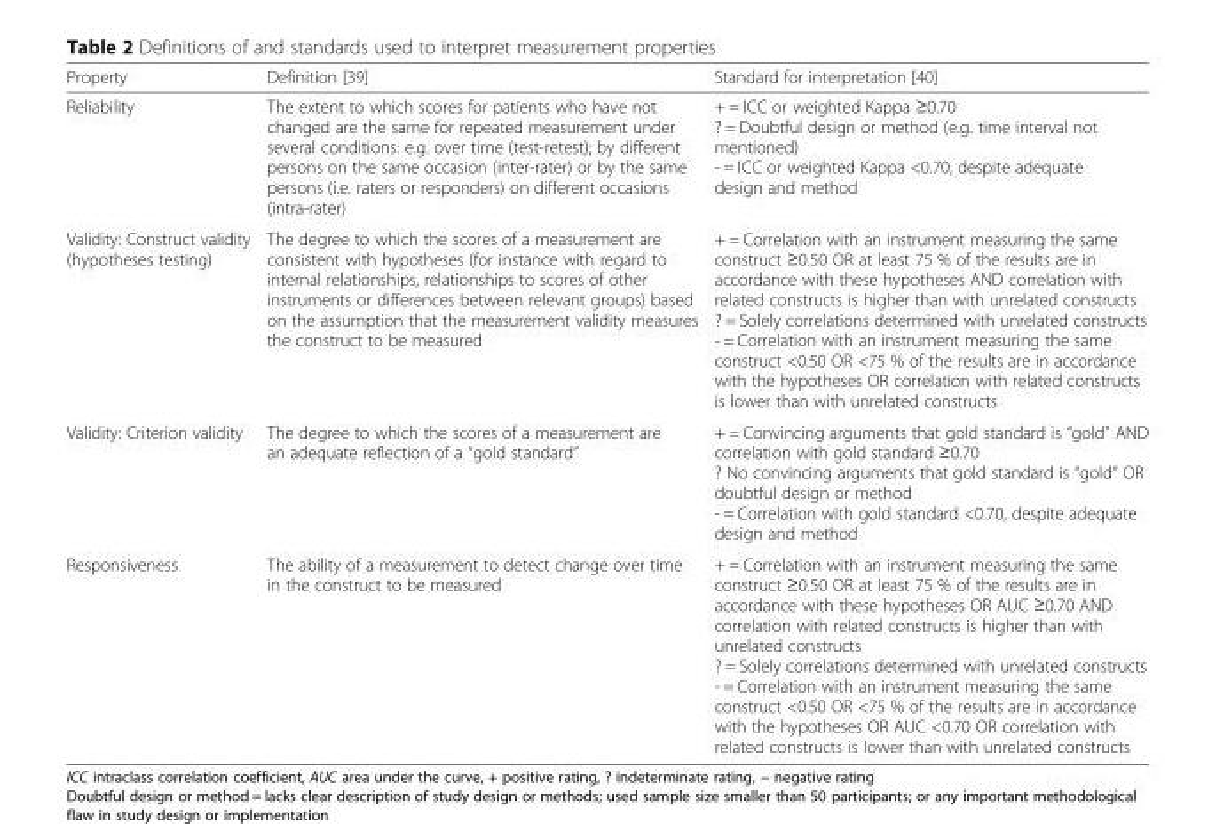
<table><thead><tr><td>Property</td><td>Definition [39]</td><td>Standard for interpretation [40]</td></tr></thead><tbody><tr><td>Reliability</td><td>The extent to which scores for patients who have not changed are the same for repeated measurement under several conditions: e.g. over time (test-retest); by different persons on the same occasion (inter-rater) or by the same persons (i.e. raters or responders) on different occasions (intra-rater)</td><td>+ = ICC or weighted Kappa ≥0.70 ? = Doubtful design or method (e.g. time interval not mentioned) - = ICC or weighted Kappa &lt;0.70, despite adequate design and method</td></tr><tr><td>Validity: Construct validity (hypotheses testing)</td><td>The degree to which the scores of a measurement are consistent with hypotheses (for instance with regard to internal relationships, relationships to scores of other instruments or differences between relevant groups) based on the assumption that the measurement validity measures the construct to be measured</td><td>+ = Correlation with an instrument measuring the same construct ≥0.50 OR at least 75 % of the results are in accordance with these hypotheses AND correlation with related constructs is higher than with unrelated constructs ? = Solely correlations determined with unrelated constructs - = Correlation with an instrument measuring the same construct &lt;0.50 OR &lt;75 % of the results are in accordance with the hypotheses OR correlation with related constructs is lower than with unrelated constructs</td></tr><tr><td>Validity: Criterion validity</td><td>The degree to which the scores of a measurement are an adequate reflection of a “gold standard”</td><td>+ = Convincing arguments that gold standard is “gold” AND correlation with gold standard ≥0.70 ? No convincing arguments that gold standard is “gold” OR doubtful design or method - = Correlation with gold standard &lt;0.70, despite adequate design and method</td></tr><tr><td>Responsiveness</td><td>The ability of a measurement to detect change over time in the construct to be measured</td><td>+ = Correlation with an instrument measuring the same construct ≥0.50 OR at least 75 % of the results are in accordance with these hypotheses OR AUC ≥0.70 AND correlation with related constructs is higher than with unrelated constructs ? = Solely correlations determined with unrelated constructs - = Correlation with an instrument measuring the same construct &lt;0.50 OR &lt;75 % of the results are in accordance with the hypotheses OR AUC &lt;0.70 OR correlation with related constructs is lower than with unrelated constructs</td></tr></tbody></table>